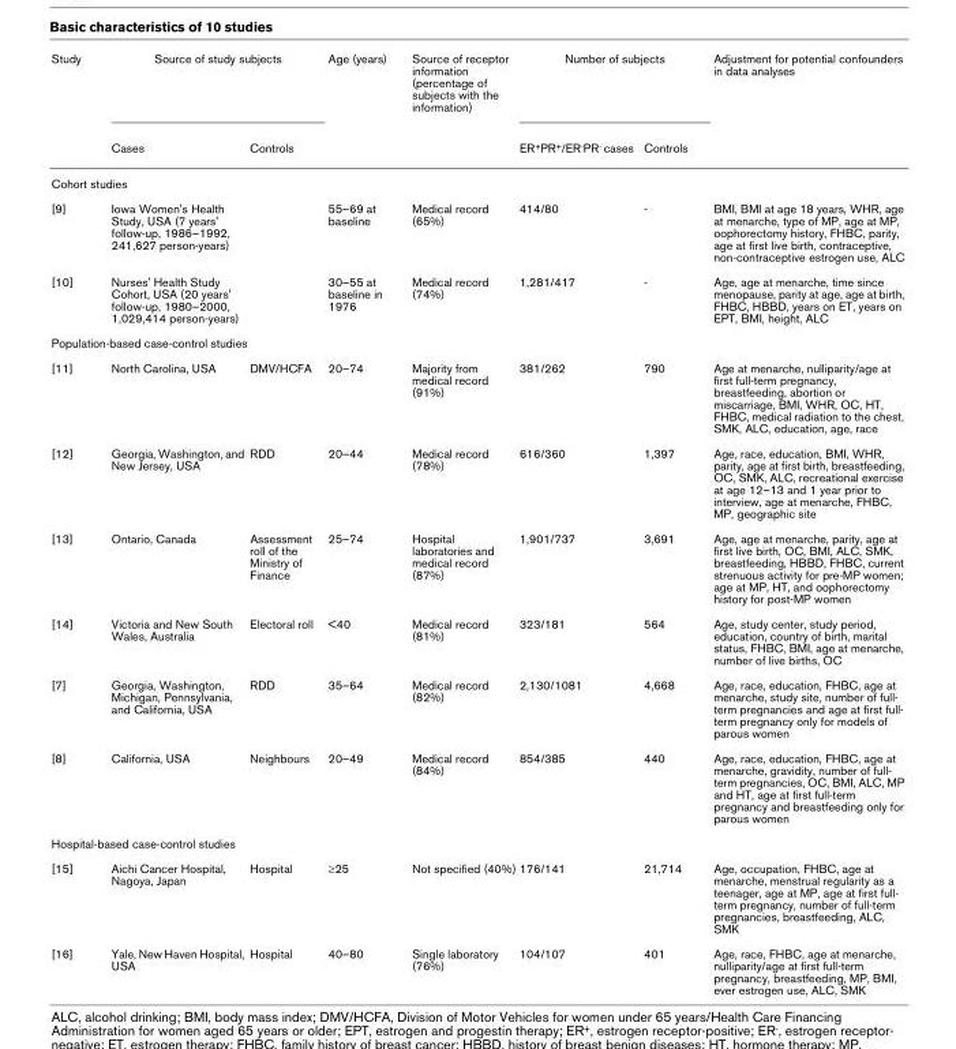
<table><thead><tr><td rowspan="2">Study</td><td colspan="2">Source of study subjects</td><td rowspan="2">Age (years)</td><td rowspan="2">Source of receptor information (percentage of subjects with the information)</td><td colspan="2">Number of subjects</td><td rowspan="2">Adjustment for potential confounders in data analyses</td></tr><tr><td>Cases</td><td>Controls</td><td>ER+PR+/ER-PR- cases</td><td>Controls</td></tr></thead><tbody><tr><td colspan="8">Cohort studies</td></tr><tr><td>[9]</td><td>Iowa Women&#x27;s Health Study, USA (7 years&#x27; follow-up, 1986–1992, 241,627 person-years)</td><td></td><td>55–69 at baseline</td><td>Medical record (65%)</td><td>414/80</td><td>-</td><td>BMI, BMI at age 18 years, WHR, age at menarche, type of MP, age at MP, oophorectomy history, FHBC, parity, age at first live birth, contraceptive, non-contraceptive estrogen use, ALC</td></tr><tr><td>[10]</td><td>Nurses&#x27; Health Study Cohort, USA (20 years&#x27; follow-up, 1980–2000, 1,029,414 person-years)</td><td></td><td>30–55 at baseline in 1976</td><td>Medical record (74%)</td><td>1,281/417</td><td>-</td><td>Age, age at menarche, time since menopause, parity at age, age at birth, FHBC, HBBD, years on ET, years on EPT, BMI, height, ALC</td></tr><tr><td colspan="8">Population-based case-control studies</td></tr><tr><td>[11]</td><td>North Carolina, USA</td><td>DMV/HCFA</td><td>20–74</td><td>Majority from medical record (91%)</td><td>381/262</td><td>790</td><td>Age at menarche, nulliparity/age at first full-term pregnancy, breastfeeding, abortion or miscarriage, BMI, WHR, OC, HT, FHBC, medical radiation to the chest, SMK, ALC, education, age, race</td></tr><tr><td>[12]</td><td>Georgia, Washington, and New Jersey, USA</td><td>RDD</td><td>20–44</td><td>Medical record (78%)</td><td>616/360</td><td>1,397</td><td>Age, race, education, BMI, WHR, parity, age at first birth, breastfeeding, OC, SMK, ALC, recreational exercise at age 12–13 and 1 year prior to interview, age at menarche, FHBC, MP, geographic site</td></tr><tr><td>[13]</td><td>Ontario, Canada</td><td>Assessment roll of the Ministry of Finance</td><td>25–74</td><td>Hospital laboratories and medical record (87%)</td><td>1,901/737</td><td>3,691</td><td>Age, age at menarche, parity, age at first live birth, OC, BMI, ALC, SMK, breastfeeding, HBBD, FHBC, current strenuous activity for pre-MP women; age at MP, HT, and oophorectomy history for post-MP women</td></tr><tr><td>[14]</td><td>Victoria and New South Wales, Australia</td><td>Electoral roll</td><td>&lt;40</td><td>Medical record (81%)</td><td>323/181</td><td>564</td><td>Age, study center, study period, education, country of birth, marital status, FHBC, BMI, age at menarche, number of live births, OC</td></tr><tr><td>[7]</td><td>Georgia, Washington, Michigan, Pennsylvania, and California, USA</td><td>RDD</td><td>35–64</td><td>Medical record (82%)</td><td>2,130/1081</td><td>4,668</td><td>Age, race, education, FHBC, age at menarche, study site, number of full- term pregnancies and age at first full- term pregnancy only for models of parous women</td></tr><tr><td>[8]</td><td>California, USA</td><td>Neighbours</td><td>20–49</td><td>Medical record (84%)</td><td>854/385</td><td>440</td><td>Age, race, education, FHBC, age at menarche, gravidity, number of full- term pregnancies, OC, BMI, ALC, MP and HT, age at first full-term pregnancy and breastfeeding only for parous women</td></tr><tr><td colspan="8">Hospital-based case-control studies</td></tr><tr><td>[15]</td><td>Aichi Cancer Hospital, Nagoya, Japan</td><td>Hospital</td><td>≥25</td><td>Not specified (40%)</td><td>176/141</td><td>21,714</td><td>Age, occupation, FHBC, age at menarche, menstrual regularity as a teenager, age at MP, age at first full- term pregnancy, number of full-term pregnancies, breastfeeding, ALC, SMK</td></tr><tr><td>[16]</td><td>Yale, New Haven Hospital, USA</td><td>Hospital</td><td>40–80</td><td>Single laboratory (76%)</td><td>104/107</td><td>401</td><td>Age, race, FHBC, age at menarche, nulliparity/age at first full-term pregnancy, breastfeeding, MP, BMI, ever estrogen use, ALC, SMK</td></tr></tbody></table>